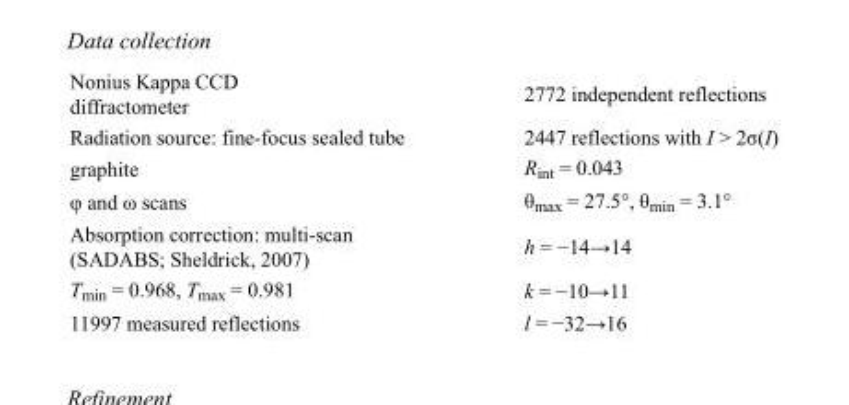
<table><tbody><tr><td>Nonius Kappa CCD diffractometer</td><td>2772 independent reflections</td></tr><tr><td>Radiation source: fine-focus sealed tube</td><td>2447 reflections with I &gt; 2σ(I)</td></tr><tr><td>graphite</td><td>R<sub>int</sub> = 0.043</td></tr><tr><td>φ and ω scans</td><td>θ<sub>max</sub> = 27.5°, θ<sub>min</sub> = 3.1°</td></tr><tr><td>Absorption correction: multi-scan (SADABS; Sheldrick, 2007)</td><td>h = −14→14</td></tr><tr><td>T<sub>min</sub> = 0.968, T<sub>max</sub> = 0.981</td><td>k = −10→11</td></tr><tr><td>11997 measured reflections</td><td>l = −32→16</td></tr></tbody></table>